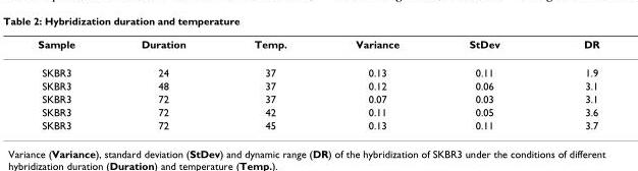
<table><thead><tr><td>Sample</td><td>Duration</td><td>Temp.</td><td>Variance</td><td>StDev</td><td>DR</td></tr></thead><tbody><tr><td>SKBR3</td><td>24</td><td>37</td><td>0.13</td><td>0.11</td><td>1.9</td></tr><tr><td>SKBR3</td><td>48</td><td>37</td><td>0.12</td><td>0.06</td><td>3.1</td></tr><tr><td>SKBR3</td><td>72</td><td>37</td><td>0.07</td><td>0.03</td><td>3.1</td></tr><tr><td>SKBR3</td><td>72</td><td>42</td><td>0.11</td><td>0.05</td><td>3.6</td></tr><tr><td>SKBR3</td><td>72</td><td>45</td><td>0.13</td><td>0.11</td><td>3.7</td></tr></tbody></table>